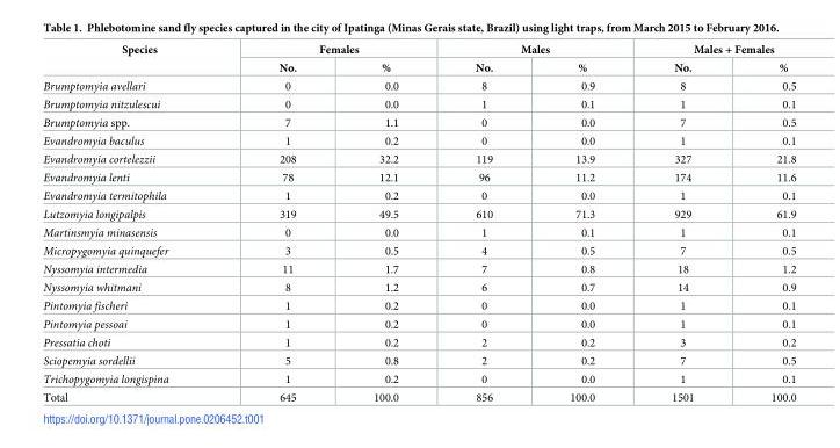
<table><thead><tr><td rowspan="2">Species</td><td colspan="2">Females</td><td colspan="2">Males</td><td colspan="2">Males + Females</td></tr><tr><td>No.</td><td>%</td><td>No.</td><td>%</td><td>No.</td><td>%</td></tr></thead><tbody><tr><td>Brumptomyia avellari</td><td>0</td><td>0.0</td><td>8</td><td>0.9</td><td>8</td><td>0.5</td></tr><tr><td>Brumptomyia nitzulescui</td><td>0</td><td>0.0</td><td>1</td><td>0.1</td><td>1</td><td>0.1</td></tr><tr><td>Brumptomyia spp.</td><td>7</td><td>1.1</td><td>0</td><td>0.0</td><td>7</td><td>0.5</td></tr><tr><td>Evandromyia baculus</td><td>1</td><td>0.2</td><td>0</td><td>0.0</td><td>1</td><td>0.1</td></tr><tr><td>Evandromyia cortelezzii</td><td>208</td><td>32.2</td><td>119</td><td>13.9</td><td>327</td><td>21.8</td></tr><tr><td>Evandromyia lenti</td><td>78</td><td>12.1</td><td>96</td><td>11.2</td><td>174</td><td>11.6</td></tr><tr><td>Evandromyia termitophila</td><td>1</td><td>0.2</td><td>0</td><td>0.0</td><td>1</td><td>0.1</td></tr><tr><td>Lutzomyia longipalpis</td><td>319</td><td>49.5</td><td>610</td><td>71.3</td><td>929</td><td>61.9</td></tr><tr><td>Martinsmyia minasensis</td><td>0</td><td>0.0</td><td>1</td><td>0.1</td><td>1</td><td>0.1</td></tr><tr><td>Micropygomyia quinquefer</td><td>3</td><td>0.5</td><td>4</td><td>0.5</td><td>7</td><td>0.5</td></tr><tr><td>Nyssomyia intermedia</td><td>11</td><td>1.7</td><td>7</td><td>0.8</td><td>18</td><td>1.2</td></tr><tr><td>Nyssomyia whitmani</td><td>8</td><td>1.2</td><td>6</td><td>0.7</td><td>14</td><td>0.9</td></tr><tr><td>Pintomyia fischeri</td><td>1</td><td>0.2</td><td>0</td><td>0.0</td><td>1</td><td>0.1</td></tr><tr><td>Pintomyia pessoai</td><td>1</td><td>0.2</td><td>0</td><td>0.0</td><td>1</td><td>0.1</td></tr><tr><td>Pressatia choti</td><td>1</td><td>0.2</td><td>2</td><td>0.2</td><td>3</td><td>0.2</td></tr><tr><td>Sciopemyia sordellii</td><td>5</td><td>0.8</td><td>2</td><td>0.2</td><td>7</td><td>0.5</td></tr><tr><td>Trichopygomyia longispina</td><td>1</td><td>0.2</td><td>0</td><td>0.0</td><td>1</td><td>0.1</td></tr><tr><td>Total</td><td>645</td><td>100.0</td><td>856</td><td>100.0</td><td>1501</td><td>100.0</td></tr></tbody></table>